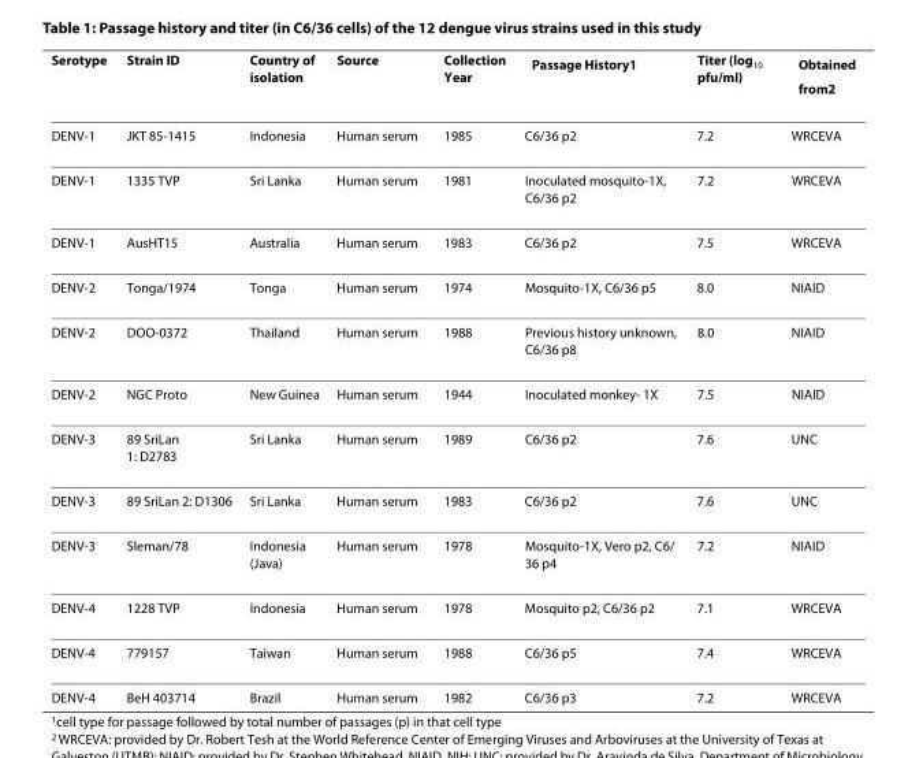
<table><thead><tr><td>Serotype</td><td>Strain ID</td><td>Country of isolation</td><td>Source</td><td>Collection Year</td><td>Passage History<sup>1</sup></td><td>Titer (log<sub>10</sub> pfu/ml)</td><td>Obtained from<sup>2</sup></td></tr></thead><tbody><tr><td>DENV-1</td><td>JKT 85-1415</td><td>Indonesia</td><td>Human serum</td><td>1985</td><td>C6/36 p2</td><td>7.2</td><td>WRCEVA</td></tr><tr><td>DENV-1</td><td>1335 TVP</td><td>Sri Lanka</td><td>Human serum</td><td>1981</td><td>Inoculated mosquito-1X, C6/36 p2</td><td>7.2</td><td>WRCEVA</td></tr><tr><td>DENV-1</td><td>AusHT15</td><td>Australia</td><td>Human serum</td><td>1983</td><td>C6/36 p2</td><td>7.5</td><td>WRCEVA</td></tr><tr><td>DENV-2</td><td>Tonga/1974</td><td>Tonga</td><td>Human serum</td><td>1974</td><td>Mosquito-1X, C6/36 p5</td><td>8.0</td><td>NIAID</td></tr><tr><td>DENV-2</td><td>DOO-0372</td><td>Thailand</td><td>Human serum</td><td>1988</td><td>Previous history unknown, C6/36 p8</td><td>8.0</td><td>NIAID</td></tr><tr><td>DENV-2</td><td>NGC Proto</td><td>New Guinea</td><td>Human serum</td><td>1944</td><td>Inoculated monkey- 1X</td><td>7.5</td><td>NIAID</td></tr><tr><td>DENV-3</td><td>89 SriLan 1: D2783</td><td>Sri Lanka</td><td>Human serum</td><td>1989</td><td>C6/36 p2</td><td>7.6</td><td>UNC</td></tr><tr><td>DENV-3</td><td>89 SriLan 2: D1306</td><td>Sri Lanka</td><td>Human serum</td><td>1983</td><td>C6/36 p2</td><td>7.6</td><td>UNC</td></tr><tr><td>DENV-3</td><td>Sleman/78</td><td>Indonesia (Java)</td><td>Human serum</td><td>1978</td><td>Mosquito-1X, Vero p2, C6/ 36 p4</td><td>7.2</td><td>NIAID</td></tr><tr><td>DENV-4</td><td>1228 TVP</td><td>Indonesia</td><td>Human serum</td><td>1978</td><td>Mosquito p2, C6/36 p2</td><td>7.1</td><td>WRCEVA</td></tr><tr><td>DENV-4</td><td>779157</td><td>Taiwan</td><td>Human serum</td><td>1988</td><td>C6/36 p5</td><td>7.4</td><td>WRCEVA</td></tr><tr><td>DENV-4</td><td>BeH 403714</td><td>Brazil</td><td>Human serum</td><td>1982</td><td>C6/36 p3</td><td>7.2</td><td>WRCEVA</td></tr></tbody></table>